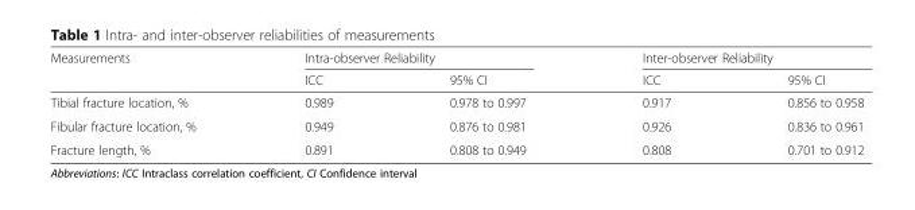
<table><thead><tr><td rowspan="2">Measurements</td><td colspan="2">Intra-observer Reliability</td><td colspan="2">Inter-observer Reliability</td></tr><tr><td>ICC</td><td>95% CI</td><td>ICC</td><td>95% CI</td></tr></thead><tbody><tr><td>Tibial fracture location, %</td><td>0.989</td><td>0.978 to 0.997</td><td>0.917</td><td>0.856 to 0.958</td></tr><tr><td>Fibular fracture location, %</td><td>0.949</td><td>0.876 to 0.981</td><td>0.926</td><td>0.836 to 0.961</td></tr><tr><td>Fracture length, %</td><td>0.891</td><td>0.808 to 0.949</td><td>0.808</td><td>0.701 to 0.912</td></tr></tbody></table>